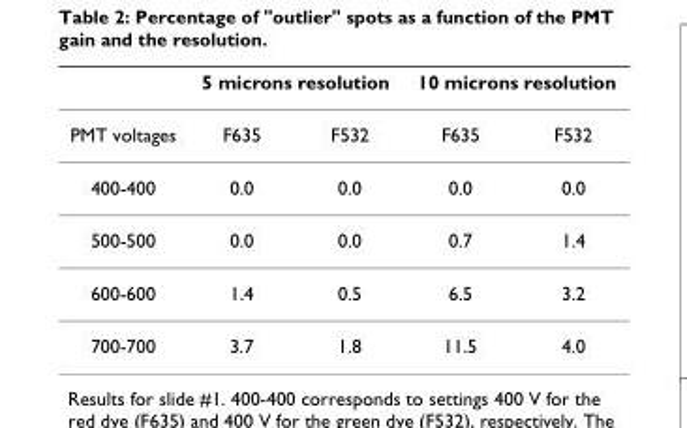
<table><thead><tr><td rowspan="2">PMT voltages</td><td colspan="2">5 microns resolution</td><td colspan="2">10 microns resolution</td></tr><tr><td>F635</td><td>F532</td><td>F635</td><td>F532</td></tr></thead><tbody><tr><td>400-400</td><td>0.0</td><td>0.0</td><td>0.0</td><td>0.0</td></tr><tr><td>500-500</td><td>0.0</td><td>0.0</td><td>0.7</td><td>1.4</td></tr><tr><td>600-600</td><td>1.4</td><td>0.5</td><td>6.5</td><td>3.2</td></tr><tr><td>700-700</td><td>3.7</td><td>1.8</td><td>11.5</td><td>4.0</td></tr></tbody></table>